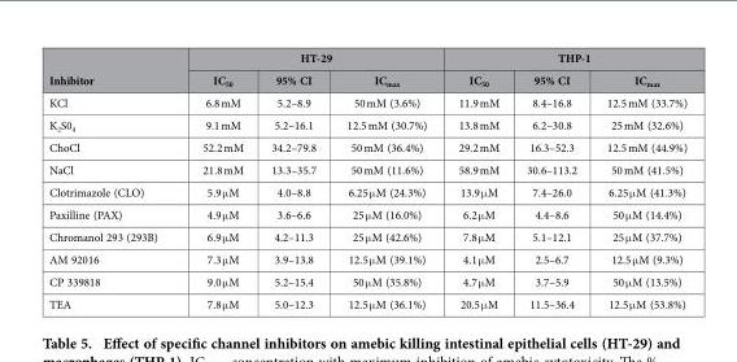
<table><thead><tr><td rowspan="2">Inhibitor</td><td colspan="3">HT-29</td><td colspan="3">THP-1</td></tr><tr><td>IC<sub>50</sub></td><td>95% CI</td><td>IC<sub>max</sub></td><td>IC<sub>50</sub></td><td>95% CI</td><td>IC<sub>max</sub></td></tr></thead><tbody><tr><td>KCl</td><td>6.8 mM</td><td>5.2–8.9</td><td>50 mM (3.6%)</td><td>11.9 mM</td><td>8.4–16.8</td><td>12.5 mM (33.7%)</td></tr><tr><td>K<sub>2</sub>S0<sub>4</sub></td><td>9.1 mM</td><td>5.2–16.1</td><td>12.5 mM (30.7%)</td><td>13.8 mM</td><td>6.2–30.8</td><td>25 mM (32.6%)</td></tr><tr><td>ChoCl</td><td>52.2 mM</td><td>34.2–79.8</td><td>50 mM (36.4%)</td><td>29.2 mM</td><td>16.3–52.3</td><td>12.5 mM (44.9%)</td></tr><tr><td>NaCl</td><td>21.8 mM</td><td>13.3–35.7</td><td>50 mM (11.6%)</td><td>58.9 mM</td><td>30.6–113.2</td><td>50 mM (41.5%)</td></tr><tr><td>Clotrimazole (CLO)</td><td>5.9 μ M</td><td>4.0–8.8</td><td>6.25 μ M (24.3%)</td><td>13.9 μ M</td><td>7.4–26.0</td><td>6.25 μ M (41.3%)</td></tr><tr><td>Paxilline (PAX)</td><td>4.9 μ M</td><td>3.6–6.6</td><td>25 μ M (16.0%)</td><td>6.2 μ M</td><td>4.4–8.6</td><td>50 μ M (14.4%)</td></tr><tr><td>Chromanol 293 (293B)</td><td>6.9 μ M</td><td>4.2–11.3</td><td>25 μ M (42.6%)</td><td>7.8 μ M</td><td>5.1–12.1</td><td>25 μ M (37.7%)</td></tr><tr><td>AM 92016</td><td>7.3 μ M</td><td>3.9–13.8</td><td>12.5 μ M (39.1%)</td><td>4.1 μ M</td><td>2.5–6.7</td><td>12.5 μ M (9.3%)</td></tr><tr><td>CP 339818</td><td>9.0 μ M</td><td>5.2–15.4</td><td>50 μ M (35.8%)</td><td>4.7 μ M</td><td>3.7–5.9</td><td>50 μ M (13.5%)</td></tr><tr><td>TEA</td><td>7.8 μ M</td><td>5.0–12.3</td><td>12.5 μ M (36.1%)</td><td>20.5 μ M</td><td>11.5–36.4</td><td>12.5 μ M (53.8%)</td></tr></tbody></table>